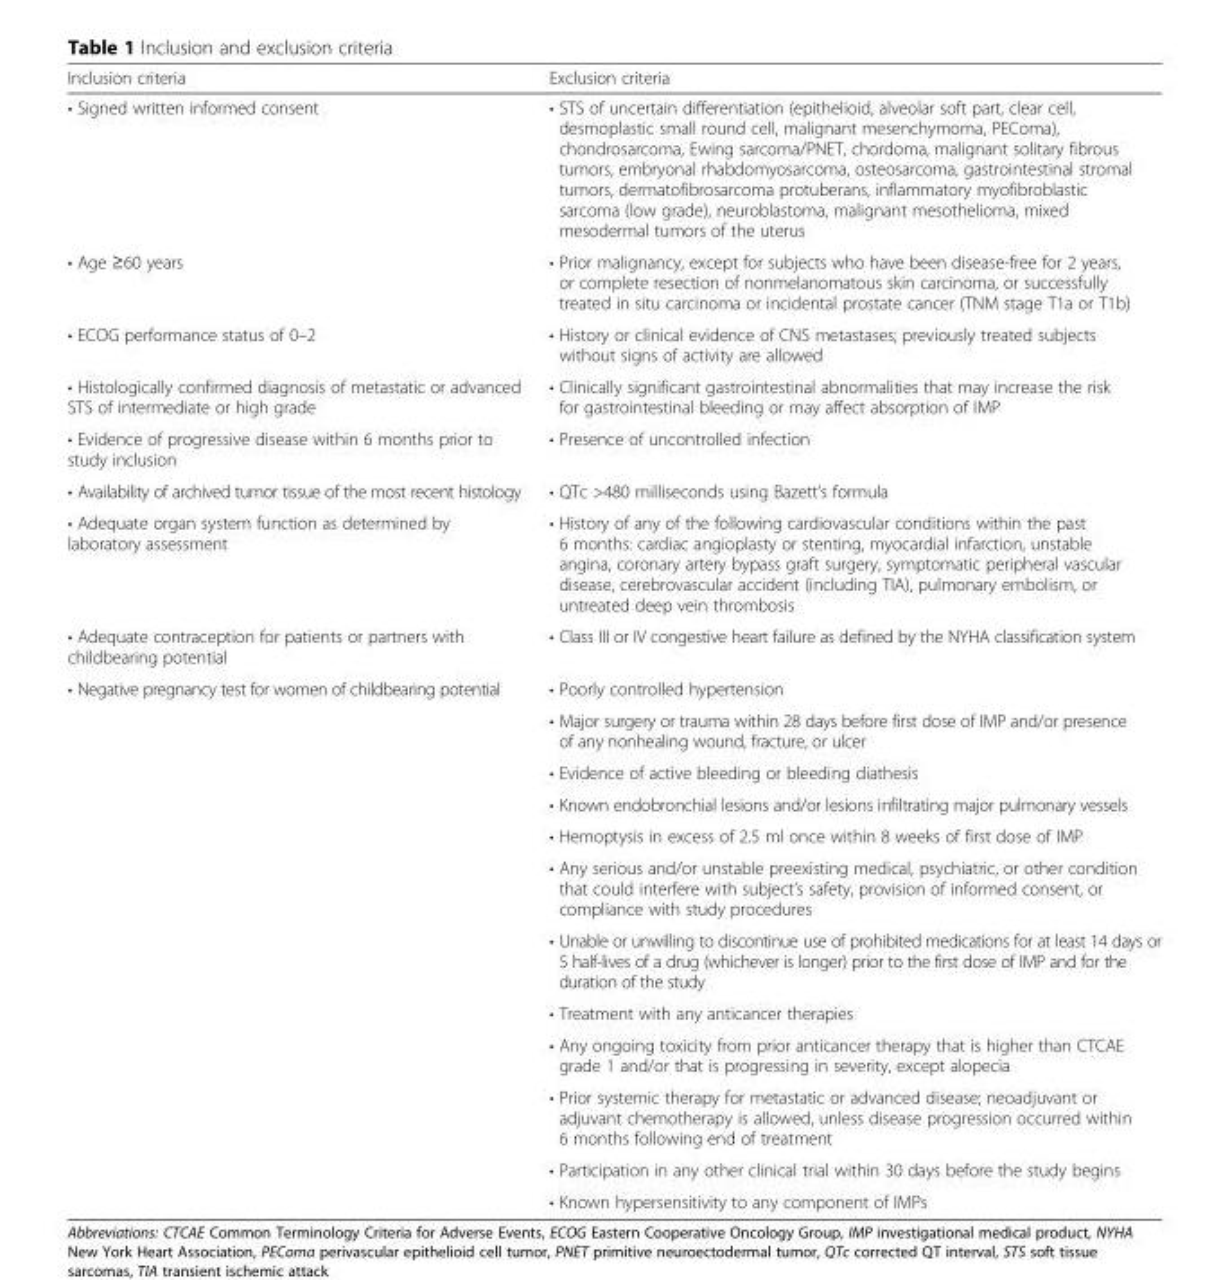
<table><thead><tr><td>Inclusion criteria</td><td>Exclusion criteria</td></tr></thead><tbody><tr><td>• Signed written informed consent</td><td>• STS of uncertain differentiation (epithelioid, alveolar soft part, clear cell, desmoplastic small round cell, malignant mesenchymoma, PEComa), chondrosarcoma, Ewing sarcoma/PNET, chordoma, malignant solitary fibrous tumors, embryonal rhabdomyosarcoma, osteosarcoma, gastrointestinal stromal tumors, dermatofibrosarcoma protuberans, inflammatory myofibroblastic sarcoma (low grade), neuroblastoma, malignant mesothelioma, mixed mesodermal tumors of the uterus</td></tr><tr><td>• Age ≥60 years</td><td>• Prior malignancy, except for subjects who have been disease-free for 2 years, or complete resection of nonmelanomatous skin carcinoma, or successfully treated in situ carcinoma or incidental prostate cancer (TNM stage T1a or T1b)</td></tr><tr><td>• ECOG performance status of 0–2</td><td>• History or clinical evidence of CNS metastases; previously treated subjects without signs of activity are allowed</td></tr><tr><td>• Histologically confirmed diagnosis of metastatic or advanced STS of intermediate or high grade</td><td>• Clinically significant gastrointestinal abnormalities that may increase the risk for gastrointestinal bleeding or may affect absorption of IMP</td></tr><tr><td>• Evidence of progressive disease within 6 months prior to study inclusion</td><td>• Presence of uncontrolled infection</td></tr><tr><td>• Availability of archived tumor tissue of the most recent histology</td><td>• QTc &gt;480 milliseconds using Bazett’s formula</td></tr><tr><td>• Adequate organ system function as determined by laboratory assessment</td><td>• History of any of the following cardiovascular conditions within the past 6 months: cardiac angioplasty or stenting, myocardial infarction, unstable angina, coronary artery bypass graft surgery, symptomatic peripheral vascular disease, cerebrovascular accident (including TIA), pulmonary embolism, or untreated deep vein thrombosis</td></tr><tr><td>• Adequate contraception for patients or partners with childbearing potential</td><td>• Class III or IV congestive heart failure as defined by the NYHA classification system</td></tr><tr><td rowspan="12">• Negative pregnancy test for women of childbearing potential</td><td>• Poorly controlled hypertension</td></tr><tr><td>• Major surgery or trauma within 28 days before first dose of IMP and/or presence of any nonhealing wound, fracture, or ulcer</td></tr><tr><td>• Evidence of active bleeding or bleeding diathesis</td></tr><tr><td>• Known endobronchial lesions and/or lesions infiltrating major pulmonary vessels</td></tr><tr><td>• Hemoptysis in excess of 2.5 ml once within 8 weeks of first dose of IMP</td></tr><tr><td>• Any serious and/or unstable preexisting medical, psychiatric, or other condition that could interfere with subject’s safety, provision of informed consent, or compliance with study procedures</td></tr><tr><td>• Unable or unwilling to discontinue use of prohibited medications for at least 14 days or 5 half-lives of a drug (whichever is longer) prior to the first dose of IMP and for the duration of the study</td></tr><tr><td>• Treatment with any anticancer therapies</td></tr><tr><td>• Any ongoing toxicity from prior anticancer therapy that is higher than CTCAE grade 1 and/or that is progressing in severity, except alopecia</td></tr><tr><td>• Prior systemic therapy for metastatic or advanced disease; neoadjuvant or adjuvant chemotherapy is allowed, unless disease progression occurred within 6 months following end of treatment</td></tr><tr><td>• Participation in any other clinical trial within 30 days before the study begins</td></tr><tr><td>• Known hypersensitivity to any component of IMPs</td></tr></tbody></table>